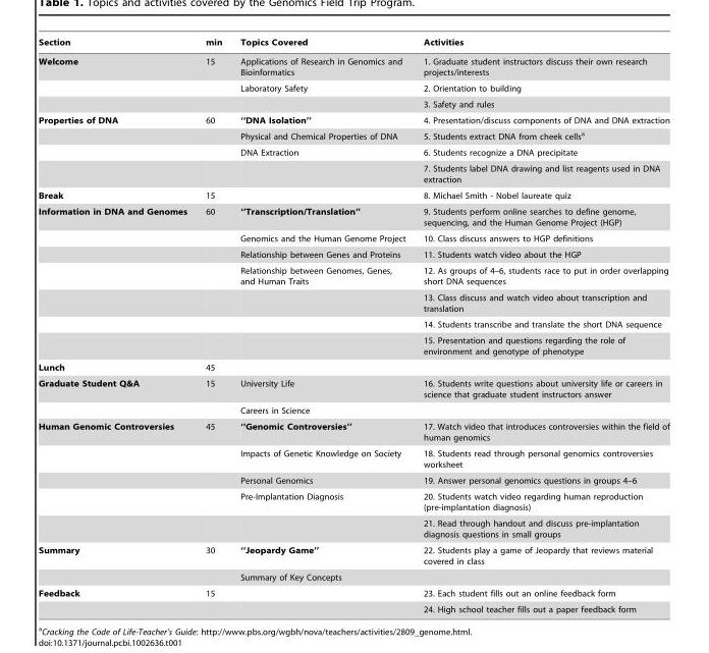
<table><thead><tr><td>Section</td><td>min</td><td>Topics Covered</td><td>Activities</td></tr></thead><tbody><tr><td rowspan="3">Welcome</td><td>15</td><td>Applications of Research in Genomics and Bioinformatics</td><td>1. Graduate student instructors discuss their own research projects/interests</td></tr><tr><td></td><td>Laboratory Safety</td><td>2. Orientation to building</td></tr><tr><td></td><td></td><td>3. Safety and rules</td></tr><tr><td rowspan="4">Properties of DNA</td><td>60</td><td>‘‘DNA Isolation’’</td><td>4. Presentation/discuss components of DNA and DNA extraction</td></tr><tr><td></td><td>Physical and Chemical Properties of DNA</td><td>5. Students extract DNA from cheek cells<sup>a</sup></td></tr><tr><td></td><td>DNA Extraction</td><td>6. Students recognize a DNA precipitate</td></tr><tr><td></td><td></td><td>7. Students label DNA drawing and list reagents used in DNA extraction</td></tr><tr><td>Break</td><td>15</td><td></td><td>8. Michael Smith - Nobel laureate quiz</td></tr><tr><td rowspan="7">Information in DNA and Genomes</td><td>60</td><td>‘‘Transcription/Translation’’</td><td>9. Students perform online searches to define genome, sequencing, and the Human Genome Project (HGP)</td></tr><tr><td></td><td>Genomics and the Human Genome Project</td><td>10. Class discuss answers to HGP definitions</td></tr><tr><td></td><td>Relationship between Genes and Proteins</td><td>11. Students watch video about the HGP</td></tr><tr><td></td><td>Relationship between Genomes, Genes, and Human Traits</td><td>12. As groups of 4–6, students race to put in order overlapping short DNA sequences</td></tr><tr><td></td><td></td><td>13. Class discuss and watch video about transcription and translation</td></tr><tr><td></td><td></td><td>14. Students transcribe and translate the short DNA sequence</td></tr><tr><td></td><td></td><td>15. Presentation and questions regarding the role of environment and genotype of phenotype</td></tr><tr><td>Lunch</td><td>45</td><td></td><td></td></tr><tr><td rowspan="2">Graduate Student Q&amp;A</td><td>15</td><td>University Life</td><td>16. Students write questions about university life or careers in science that graduate student instructors answer</td></tr><tr><td></td><td>Careers in Science</td><td></td></tr><tr><td rowspan="5">Human Genomic Controversies</td><td>45</td><td>‘‘Genomic Controversies’’</td><td>17. Watch video that introduces controversies within the field of human genomics</td></tr><tr><td></td><td>Impacts of Genetic Knowledge on Society</td><td>18. Students read through personal genomics controversies worksheet</td></tr><tr><td></td><td>Personal Genomics</td><td>19. Answer personal genomics questions in groups 4–6</td></tr><tr><td></td><td>Pre-Implantation Diagnosis</td><td>20. Students watch video regarding human reproduction (pre-implantation diagnosis)</td></tr><tr><td></td><td></td><td>21. Read through handout and discuss pre-implantation diagnosis questions in small groups</td></tr><tr><td rowspan="2">Summary</td><td>30</td><td>‘‘Jeopardy Game’’</td><td>22. Students play a game of Jeopardy that reviews material covered in class</td></tr><tr><td></td><td>Summary of Key Concepts</td><td></td></tr><tr><td rowspan="2">Feedback</td><td>15</td><td></td><td>23. Each student fills out an online feedback form</td></tr><tr><td></td><td></td><td>24. High school teacher fills out a paper feedback form</td></tr></tbody></table>